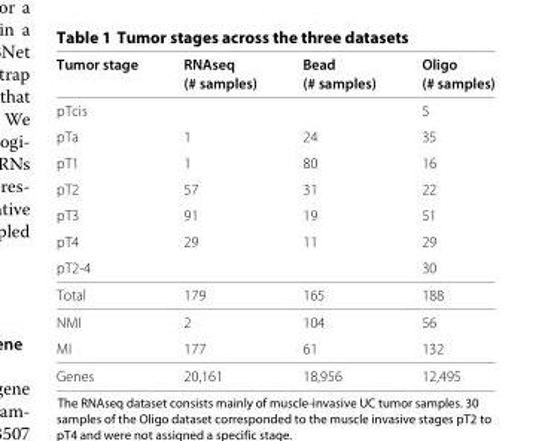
<table><thead><tr><td rowspan="2">Tumor stage</td><td rowspan="2">RNAseq (# samples)</td><td rowspan="2">Bead (# samples)</td><td rowspan="2">Oligo (# samples)</td></tr><tr></tr></thead><tbody><tr><td>pTcis</td><td></td><td></td><td>5</td></tr><tr><td>pTa</td><td>1</td><td>24</td><td>35</td></tr><tr><td>pT1</td><td>1</td><td>80</td><td>16</td></tr><tr><td>pT2</td><td>57</td><td>31</td><td>22</td></tr><tr><td>pT3</td><td>91</td><td>19</td><td>51</td></tr><tr><td>pT4</td><td>29</td><td>11</td><td>29</td></tr><tr><td>pT2-4</td><td></td><td></td><td>30</td></tr><tr><td>Total</td><td>179</td><td>165</td><td>188</td></tr><tr><td>NMI</td><td>2</td><td>104</td><td>56</td></tr><tr><td>MI</td><td>177</td><td>61</td><td>132</td></tr><tr><td>Genes</td><td>20,161</td><td>18,956</td><td>12,495</td></tr></tbody></table>